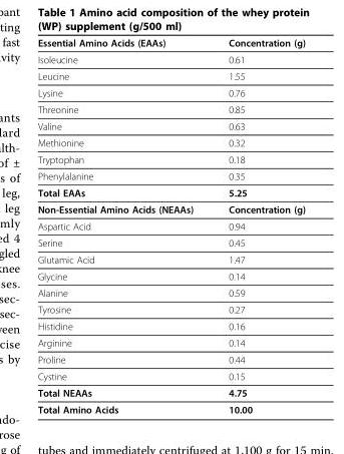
<table><thead><tr><td>Essential Amino Acids (EAAs)</td><td>Concentration (g)</td></tr></thead><tbody><tr><td>Isoleucine</td><td>0.61</td></tr><tr><td>Leucine</td><td>1.55</td></tr><tr><td>Lysine</td><td>0.76</td></tr><tr><td>Threonine</td><td>0.85</td></tr><tr><td>Valine</td><td>0.63</td></tr><tr><td>Methionine</td><td>0.32</td></tr><tr><td>Tryptophan</td><td>0.18</td></tr><tr><td>Phenylalanine</td><td>0.35</td></tr><tr><td>Total EAAs</td><td>5.25</td></tr><tr><td>Non-Essential Amino Acids (NEAAs)</td><td>Concentration (g)</td></tr><tr><td>Aspartic Acid</td><td>0.94</td></tr><tr><td>Serine</td><td>0.45</td></tr><tr><td>Glutamic Acid</td><td>1.47</td></tr><tr><td>Glycine</td><td>0.14</td></tr><tr><td>Alanine</td><td>0.59</td></tr><tr><td>Tyrosine</td><td>0.27</td></tr><tr><td>Histidine</td><td>0.16</td></tr><tr><td>Arginine</td><td>0.14</td></tr><tr><td>Proline</td><td>0.44</td></tr><tr><td>Cystine</td><td>0.15</td></tr><tr><td>Total NEAAs</td><td>4.75</td></tr><tr><td>Total Amino Acids</td><td>10.00</td></tr></tbody></table>